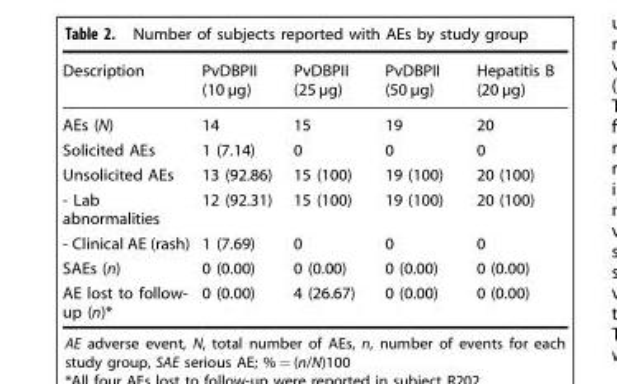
<table><thead><tr><td>Description</td><td>PvDBPII (10 µg)</td><td>PvDBPII (25 µg)</td><td>PvDBPII (50 µg)</td><td>Hepatitis B (20 µg)</td></tr></thead><tbody><tr><td>AEs (N)</td><td>14</td><td>15</td><td>19</td><td>20</td></tr><tr><td>Solicited AEs</td><td>1 (7.14)</td><td>0</td><td>0</td><td>0</td></tr><tr><td>Unsolicited AEs</td><td>13 (92.86)</td><td>15 (100)</td><td>19 (100)</td><td>20 (100)</td></tr><tr><td>- Lab abnormalities</td><td>12 (92.31)</td><td>15 (100)</td><td>19 (100)</td><td>20 (100)</td></tr><tr><td>- Clinical AE (rash)</td><td>1 (7.69)</td><td>0</td><td>0</td><td>0</td></tr><tr><td>SAEs (n)</td><td>0 (0.00)</td><td>0 (0.00)</td><td>0 (0.00)</td><td>0 (0.00)</td></tr><tr><td>AE lost to follow- up (n)*</td><td>0 (0.00)</td><td>4 (26.67)</td><td>0 (0.00)</td><td>0 (0.00)</td></tr></tbody></table>